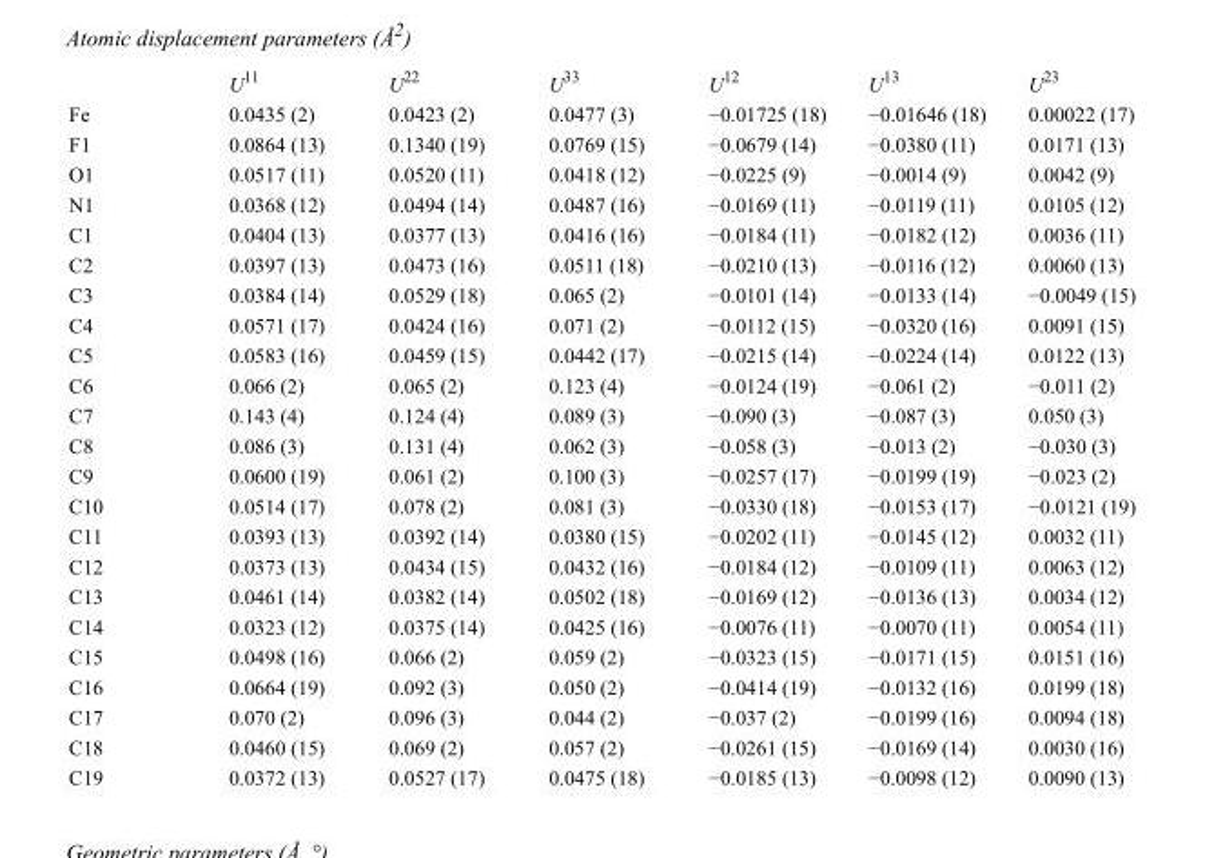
<table><thead><tr><td></td><td>U<sup>11</sup></td><td>U<sup>22</sup></td><td>U<sup>33</sup></td><td>U<sup>12</sup></td><td>U<sup>13</sup></td><td>U<sup>23</sup></td></tr></thead><tbody><tr><td>Fe</td><td>0.0435 (2)</td><td>0.0423 (2)</td><td>0.0477 (3)</td><td>−0.01725 (18)</td><td>−0.01646 (18)</td><td>0.00022 (17)</td></tr><tr><td>F1</td><td>0.0864 (13)</td><td>0.1340 (19)</td><td>0.0769 (15)</td><td>−0.0679 (14)</td><td>−0.0380 (11)</td><td>0.0171 (13)</td></tr><tr><td>O1</td><td>0.0517 (11)</td><td>0.0520 (11)</td><td>0.0418 (12)</td><td>−0.0225 (9)</td><td>−0.0014 (9)</td><td>0.0042 (9)</td></tr><tr><td>N1</td><td>0.0368 (12)</td><td>0.0494 (14)</td><td>0.0487 (16)</td><td>−0.0169 (11)</td><td>−0.0119 (11)</td><td>0.0105 (12)</td></tr><tr><td>C1</td><td>0.0404 (13)</td><td>0.0377 (13)</td><td>0.0416 (16)</td><td>−0.0184 (11)</td><td>−0.0182 (12)</td><td>0.0036 (11)</td></tr><tr><td>C2</td><td>0.0397 (13)</td><td>0.0473 (16)</td><td>0.0511 (18)</td><td>−0.0210 (13)</td><td>−0.0116 (12)</td><td>0.0060 (13)</td></tr><tr><td>C3</td><td>0.0384 (14)</td><td>0.0529 (18)</td><td>0.065 (2)</td><td>−0.0101 (14)</td><td>−0.0133 (14)</td><td>−0.0049 (15)</td></tr><tr><td>C4</td><td>0.0571 (17)</td><td>0.0424 (16)</td><td>0.071 (2)</td><td>−0.0112 (15)</td><td>−0.0320 (16)</td><td>0.0091 (15)</td></tr><tr><td>C5</td><td>0.0583 (16)</td><td>0.0459 (15)</td><td>0.0442 (17)</td><td>−0.0215 (14)</td><td>−0.0224 (14)</td><td>0.0122 (13)</td></tr><tr><td>C6</td><td>0.066 (2)</td><td>0.065 (2)</td><td>0.123 (4)</td><td>−0.0124 (19)</td><td>−0.061 (2)</td><td>−0.011 (2)</td></tr><tr><td>C7</td><td>0.143 (4)</td><td>0.124 (4)</td><td>0.089 (3)</td><td>−0.090 (3)</td><td>−0.087 (3)</td><td>0.050 (3)</td></tr><tr><td>C8</td><td>0.086 (3)</td><td>0.131 (4)</td><td>0.062 (3)</td><td>−0.058 (3)</td><td>−0.013 (2)</td><td>−0.030 (3)</td></tr><tr><td>C9</td><td>0.0600 (19)</td><td>0.061 (2)</td><td>0.100 (3)</td><td>−0.0257 (17)</td><td>−0.0199 (19)</td><td>−0.023 (2)</td></tr><tr><td>C10</td><td>0.0514 (17)</td><td>0.078 (2)</td><td>0.081 (3)</td><td>−0.0330 (18)</td><td>−0.0153 (17)</td><td>−0.0121 (19)</td></tr><tr><td>C11</td><td>0.0393 (13)</td><td>0.0392 (14)</td><td>0.0380 (15)</td><td>−0.0202 (11)</td><td>−0.0145 (12)</td><td>0.0032 (11)</td></tr><tr><td>C12</td><td>0.0373 (13)</td><td>0.0434 (15)</td><td>0.0432 (16)</td><td>−0.0184 (12)</td><td>−0.0109 (11)</td><td>0.0063 (12)</td></tr><tr><td>C13</td><td>0.0461 (14)</td><td>0.0382 (14)</td><td>0.0502 (18)</td><td>−0.0169 (12)</td><td>−0.0136 (13)</td><td>0.0034 (12)</td></tr><tr><td>C14</td><td>0.0323 (12)</td><td>0.0375 (14)</td><td>0.0425 (16)</td><td>−0.0076 (11)</td><td>−0.0070 (11)</td><td>0.0054 (11)</td></tr><tr><td>C15</td><td>0.0498 (16)</td><td>0.066 (2)</td><td>0.059 (2)</td><td>−0.0323 (15)</td><td>−0.0171 (15)</td><td>0.0151 (16)</td></tr><tr><td>C16</td><td>0.0664 (19)</td><td>0.092 (3)</td><td>0.050 (2)</td><td>−0.0414 (19)</td><td>−0.0132 (16)</td><td>0.0199 (18)</td></tr><tr><td>C17</td><td>0.070 (2)</td><td>0.096 (3)</td><td>0.044 (2)</td><td>−0.037 (2)</td><td>−0.0199 (16)</td><td>0.0094 (18)</td></tr><tr><td>C18</td><td>0.0460 (15)</td><td>0.069 (2)</td><td>0.057 (2)</td><td>−0.0261 (15)</td><td>−0.0169 (14)</td><td>0.0030 (16)</td></tr><tr><td>C19</td><td>0.0372 (13)</td><td>0.0527 (17)</td><td>0.0475 (18)</td><td>−0.0185 (13)</td><td>−0.0098 (12)</td><td>0.0090 (13)</td></tr></tbody></table>